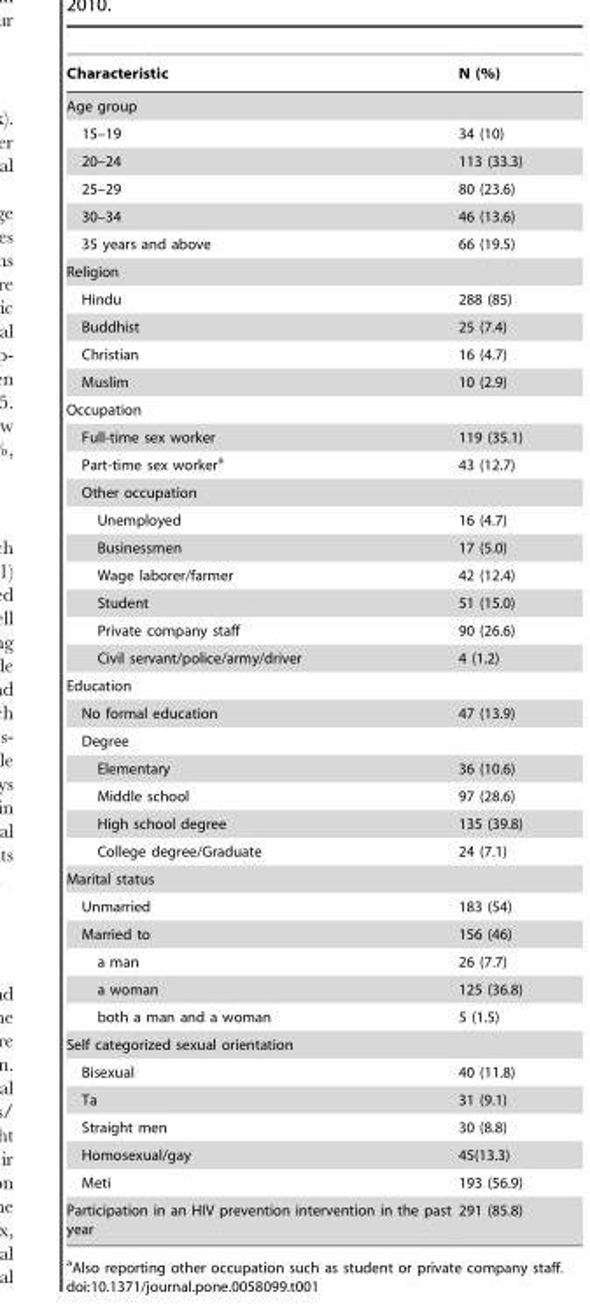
<table><thead><tr><td>Characteristic</td><td>N (%)</td></tr></thead><tbody><tr><td colspan="2">Age group</td></tr><tr><td>15–19</td><td>34 (10)</td></tr><tr><td>20–24</td><td>113 (33.3)</td></tr><tr><td>25–29</td><td>80 (23.6)</td></tr><tr><td>30–34</td><td>46 (13.6)</td></tr><tr><td>35 years and above</td><td>66 (19.5)</td></tr><tr><td colspan="2">Religion</td></tr><tr><td>Hindu</td><td>288 (85)</td></tr><tr><td>Buddhist</td><td>25 (7.4)</td></tr><tr><td>Christian</td><td>16 (4.7)</td></tr><tr><td>Muslim</td><td>10 (2.9)</td></tr><tr><td colspan="2">Occupation</td></tr><tr><td>Full-time sex worker</td><td>119 (35.1)</td></tr><tr><td>Part-time sex worker<sup>a</sup></td><td>43 (12.7)</td></tr><tr><td colspan="2">Other occupation</td></tr><tr><td>Unemployed</td><td>16 (4.7)</td></tr><tr><td>Businessmen</td><td>17 (5.0)</td></tr><tr><td>Wage laborer/farmer</td><td>42 (12.4)</td></tr><tr><td>Student</td><td>51 (15.0)</td></tr><tr><td>Private company staff</td><td>90 (26.6)</td></tr><tr><td>Civil servant/police/army/driver</td><td>4 (1.2)</td></tr><tr><td colspan="2">Education</td></tr><tr><td>No formal education</td><td>47 (13.9)</td></tr><tr><td colspan="2">Degree</td></tr><tr><td>Elementary</td><td>36 (10.6)</td></tr><tr><td>Middle school</td><td>97 (28.6)</td></tr><tr><td>High school degree</td><td>135 (39.8)</td></tr><tr><td>College degree/Graduate</td><td>24 (7.1)</td></tr><tr><td colspan="2">Marital status</td></tr><tr><td>Unmarried</td><td>183 (54)</td></tr><tr><td>Married to</td><td>156 (46)</td></tr><tr><td>a man</td><td>26 (7.7)</td></tr><tr><td>a woman</td><td>125 (36.8)</td></tr><tr><td>both a man and a woman</td><td>5 (1.5)</td></tr><tr><td colspan="2">Self categorized sexual orientation</td></tr><tr><td>Bisexual</td><td>40 (11.8)</td></tr><tr><td>Ta</td><td>31 (9.1)</td></tr><tr><td>Straight men</td><td>30 (8.8)</td></tr><tr><td>Homosexual/gay</td><td>45(13.3)</td></tr><tr><td>Meti</td><td>193 (56.9)</td></tr><tr><td>Participation in an HIV prevention intervention in the past year</td><td>291 (85.8)</td></tr></tbody></table>